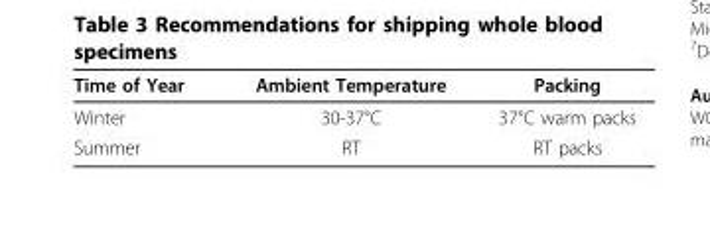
<table><thead><tr><td>Time of Year</td><td>Ambient Temperature</td><td>Packing</td></tr></thead><tbody><tr><td>Winter</td><td>30-37°C</td><td>37°C warm packs</td></tr><tr><td>Summer</td><td>RT</td><td>RT packs</td></tr></tbody></table>